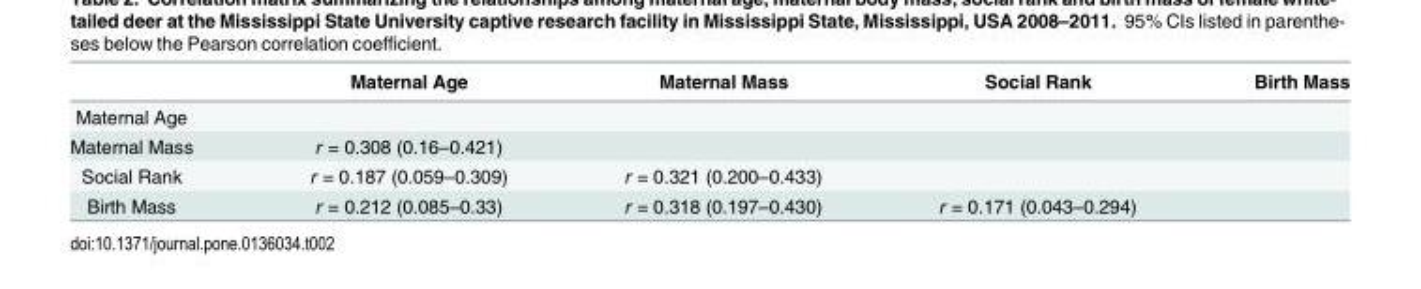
<table><thead><tr><td></td><td>Maternal Age</td><td>Maternal Mass</td><td>Social Rank</td><td>Birth Mass</td></tr></thead><tbody><tr><td colspan="5">Maternal Age</td></tr><tr><td>Maternal Mass</td><td>r = 0.308 (0.16–0.421)</td><td></td><td></td><td></td></tr><tr><td>Social Rank</td><td>r = 0.187 (0.059–0.309)</td><td>r = 0.321 (0.200–0.433)</td><td></td><td></td></tr><tr><td>Birth Mass</td><td>r = 0.212 (0.085–0.33)</td><td>r = 0.318 (0.197–0.430)</td><td>r = 0.171 (0.043–0.294)</td><td></td></tr></tbody></table>